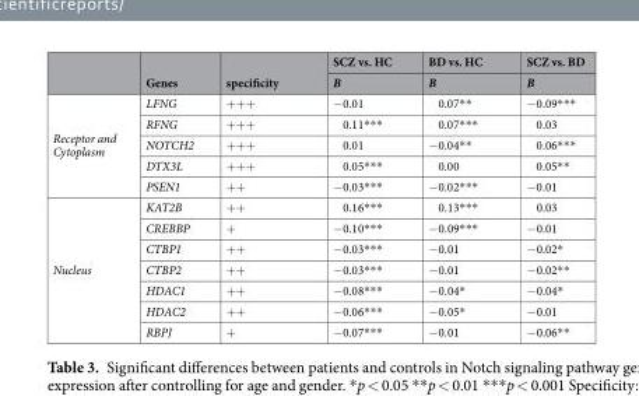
<table><thead><tr><td rowspan="2"></td><td rowspan="2">Genes</td><td rowspan="2">specificity</td><td rowspan="2">SCZ vs. HC B</td><td rowspan="2">BD vs. HC B</td><td rowspan="2">SCZ vs. BD B</td></tr><tr></tr></thead><tbody><tr><td rowspan="5">Receptor and Cytoplasm</td><td>LFNG</td><td>+++</td><td>−0.01</td><td>0.07**</td><td>−0.09***</td></tr><tr><td>RFNG</td><td>+++</td><td>0.11***</td><td>0.07***</td><td>0.03</td></tr><tr><td>NOTCH2</td><td>+++</td><td>0.01</td><td>−0.04**</td><td>0.06***</td></tr><tr><td>DTX3L</td><td>+++</td><td>0.05***</td><td>0.00</td><td>0.05**</td></tr><tr><td>PSEN1</td><td>++</td><td>−0.03***</td><td>−0.02***</td><td>−0.01</td></tr><tr><td rowspan="7">Nucleus</td><td>KAT2B</td><td>++</td><td>0.16***</td><td>0.13***</td><td>0.03</td></tr><tr><td>CREBBP</td><td>+</td><td>−0.10***</td><td>−0.09***</td><td>−0.01</td></tr><tr><td>CTBP1</td><td>++</td><td>−0.03***</td><td>−0.01</td><td>−0.02*</td></tr><tr><td>CTBP2</td><td>++</td><td>−0.03***</td><td>−0.01</td><td>−0.02**</td></tr><tr><td>HDAC1</td><td>++</td><td>−0.08***</td><td>−0.04*</td><td>−0.04*</td></tr><tr><td>HDAC2</td><td>++</td><td>−0.06***</td><td>−0.05*</td><td>−0.01</td></tr><tr><td>RBPJ</td><td>+</td><td>−0.07***</td><td>−0.01</td><td>−0.06**</td></tr></tbody></table>